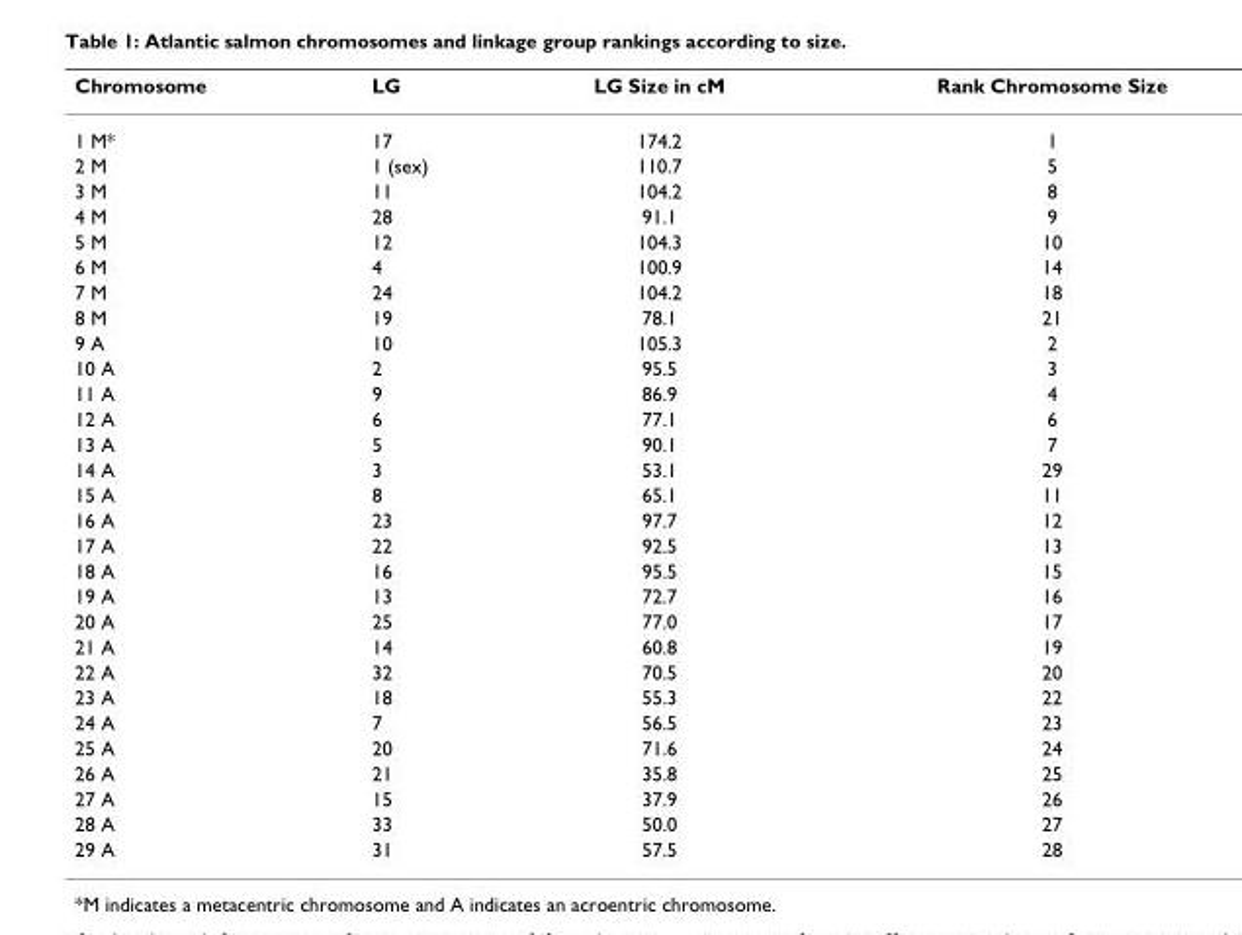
<table><thead><tr><td>Chromosome</td><td>LG</td><td>LG Size in cM</td><td>Rank Chromosome Size</td></tr></thead><tbody><tr><td>1 M*</td><td>17</td><td>174.2</td><td>1</td></tr><tr><td>2 M</td><td>1 (sex)</td><td>110.7</td><td>5</td></tr><tr><td>3 M</td><td>11</td><td>104.2</td><td>8</td></tr><tr><td>4 M</td><td>28</td><td>91.1</td><td>9</td></tr><tr><td>5 M</td><td>12</td><td>104.3</td><td>10</td></tr><tr><td>6 M</td><td>4</td><td>100.9</td><td>14</td></tr><tr><td>7 M</td><td>24</td><td>104.2</td><td>18</td></tr><tr><td>8 M</td><td>19</td><td>78.1</td><td>21</td></tr><tr><td>9 A</td><td>10</td><td>105.3</td><td>2</td></tr><tr><td>10 A</td><td>2</td><td>95.5</td><td>3</td></tr><tr><td>11 A</td><td>9</td><td>86.9</td><td>4</td></tr><tr><td>12 A</td><td>6</td><td>77.1</td><td>6</td></tr><tr><td>13 A</td><td>5</td><td>90.1</td><td>7</td></tr><tr><td>14 A</td><td>3</td><td>53.1</td><td>29</td></tr><tr><td>15 A</td><td>8</td><td>65.1</td><td>11</td></tr><tr><td>16 A</td><td>23</td><td>97.7</td><td>12</td></tr><tr><td>17 A</td><td>22</td><td>92.5</td><td>13</td></tr><tr><td>18 A</td><td>16</td><td>95.5</td><td>15</td></tr><tr><td>19 A</td><td>13</td><td>72.7</td><td>16</td></tr><tr><td>20 A</td><td>25</td><td>77.0</td><td>17</td></tr><tr><td>21 A</td><td>14</td><td>60.8</td><td>19</td></tr><tr><td>22 A</td><td>32</td><td>70.5</td><td>20</td></tr><tr><td>23 A</td><td>18</td><td>55.3</td><td>22</td></tr><tr><td>24 A</td><td>7</td><td>56.5</td><td>23</td></tr><tr><td>25 A</td><td>20</td><td>71.6</td><td>24</td></tr><tr><td>26 A</td><td>21</td><td>35.8</td><td>25</td></tr><tr><td>27 A</td><td>15</td><td>37.9</td><td>26</td></tr><tr><td>28 A</td><td>33</td><td>50.0</td><td>27</td></tr><tr><td>29 A</td><td>31</td><td>57.5</td><td>28</td></tr></tbody></table>